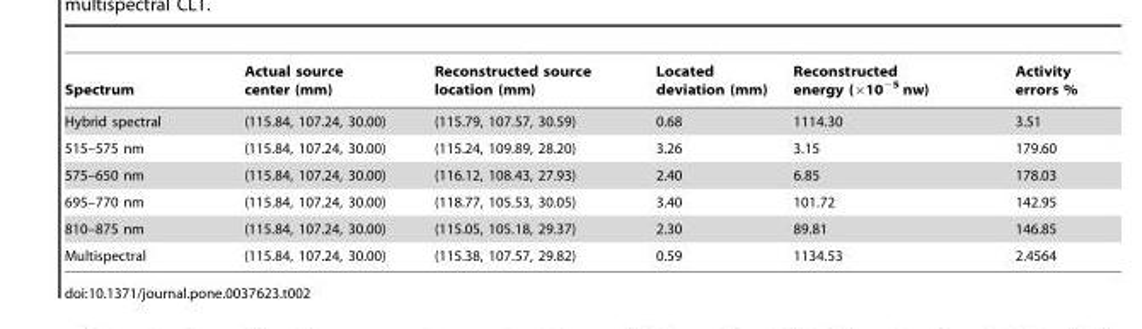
<table><thead><tr><td>Spectrum</td><td>Actual source center (mm)</td><td>Reconstructed source location (mm)</td><td>Located deviation (mm)</td><td>Reconstructed energy (×10<sup>−5</sup> nw)</td><td>Activity errors %</td></tr></thead><tbody><tr><td>Hybrid spectral</td><td>(115.84, 107.24, 30.00)</td><td>(115.79, 107.57, 30.59)</td><td>0.68</td><td>1114.30</td><td>3.51</td></tr><tr><td>515–575 nm</td><td>(115.84, 107.24, 30.00)</td><td>(115.24, 109.89, 28.20)</td><td>3.26</td><td>3.15</td><td>179.60</td></tr><tr><td>575–650 nm</td><td>(115.84, 107.24, 30.00)</td><td>(116.12, 108.43, 27.93)</td><td>2.40</td><td>6.85</td><td>178.03</td></tr><tr><td>695–770 nm</td><td>(115.84, 107.24, 30.00)</td><td>(118.77, 105.53, 30.05)</td><td>3.40</td><td>101.72</td><td>142.95</td></tr><tr><td>810–875 nm</td><td>(115.84, 107.24, 30.00)</td><td>(115.05, 105.18, 29.37)</td><td>2.30</td><td>89.81</td><td>146.85</td></tr><tr><td>Multispectral</td><td>(115.84, 107.24, 30.00)</td><td>(115.38, 107.57, 29.82)</td><td>0.59</td><td>1134.53</td><td>2.4564</td></tr></tbody></table>